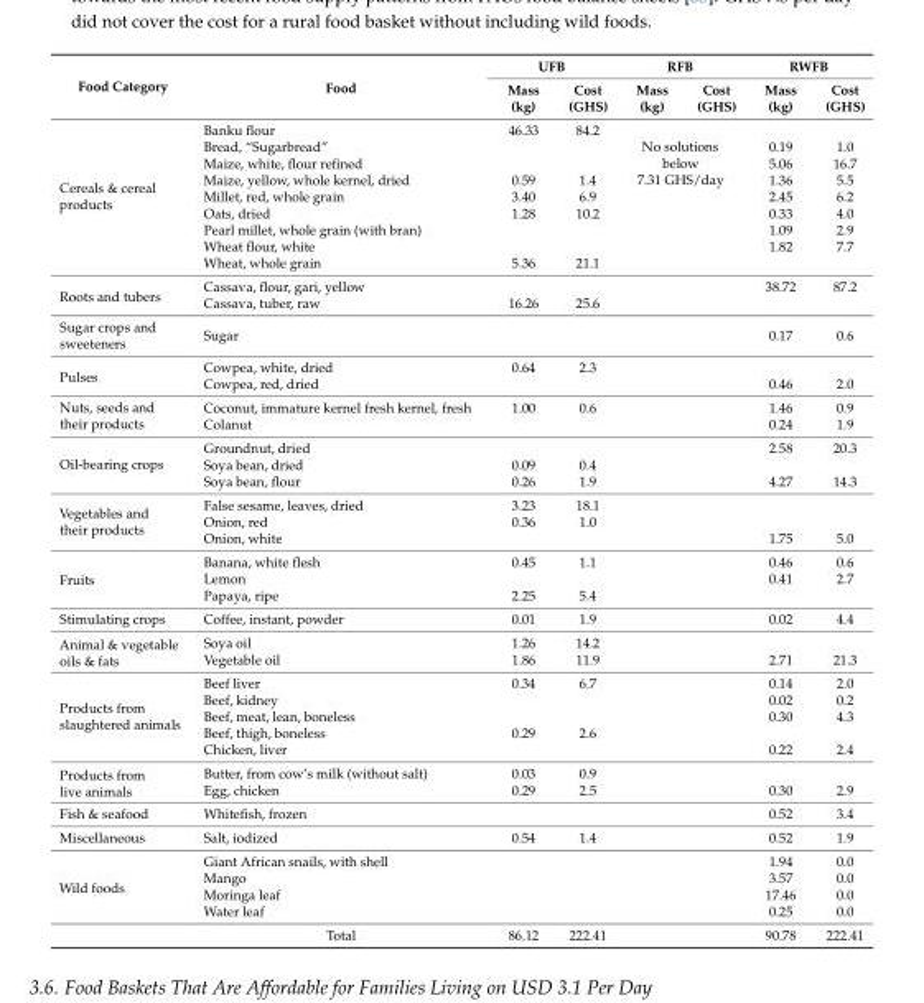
<table><thead><tr><td rowspan="2">Food Category</td><td rowspan="2">Food</td><td colspan="2">UFB</td><td colspan="2">RFB</td><td colspan="2">RWFB</td></tr><tr><td>Mass (kg)</td><td>Cost (GHS)</td><td>Mass (kg)</td><td>Cost (GHS)</td><td>Mass (kg)</td><td>Cost (GHS)</td></tr></thead><tbody><tr><td rowspan="9">Cereals &amp; cereal products</td><td>Banku flour</td><td>46.33</td><td>84.2</td><td rowspan="5" colspan="2">No solutions below 7.31 GHS/day</td><td></td><td></td></tr><tr><td>Bread, “Sugarbread”</td><td></td><td></td><td>0.19</td><td>1.0</td></tr><tr><td>Maize, white, flour refined</td><td></td><td></td><td>5.06</td><td>16.7</td></tr><tr><td>Maize, yellow, whole kernel, dried</td><td>0.59</td><td>1.4</td><td>1.36</td><td>5.5</td></tr><tr><td>Millet, red, whole grain</td><td>3.40</td><td>6.9</td><td>2.45</td><td>6.2</td></tr><tr><td>Oats, dried</td><td>1.28</td><td>10.2</td><td></td><td></td><td>0.33</td><td>4.0</td></tr><tr><td>Pearl millet, whole grain (with bran)</td><td></td><td></td><td></td><td></td><td>1.09</td><td>2.9</td></tr><tr><td>Wheat flour, white</td><td></td><td></td><td></td><td></td><td>1.82</td><td>7.7</td></tr><tr><td>Wheat, whole grain</td><td>5.36</td><td>21.1</td><td></td><td></td><td></td><td></td></tr><tr><td rowspan="2">Roots and tubers</td><td>Cassava, flour, gari, yellow</td><td></td><td></td><td></td><td></td><td>38.72</td><td>87.2</td></tr><tr><td>Cassava, tuber, raw</td><td>16.26</td><td>25.6</td><td></td><td></td><td></td><td></td></tr><tr><td>Sugar crops and sweeteners</td><td>Sugar</td><td></td><td></td><td></td><td></td><td>0.17</td><td>0.6</td></tr><tr><td rowspan="2">Pulses</td><td>Cowpea, white, dried</td><td>0.64</td><td>2.3</td><td></td><td></td><td></td><td></td></tr><tr><td>Cowpea, red, dried</td><td></td><td></td><td></td><td></td><td>0.46</td><td>2.0</td></tr><tr><td rowspan="2">Nuts, seeds and their products</td><td>Coconut, immature kernel fresh kernel, fresh</td><td>1.00</td><td>0.6</td><td></td><td></td><td>1.46</td><td>0.9</td></tr><tr><td>Colanut</td><td></td><td></td><td></td><td></td><td>0.24</td><td>1.9</td></tr><tr><td rowspan="3">Oil-bearing crops</td><td>Groundnut, dried</td><td></td><td></td><td></td><td></td><td>2.58</td><td>20.3</td></tr><tr><td>Soya bean, dried</td><td>0.09</td><td>0.4</td><td></td><td></td><td></td><td></td></tr><tr><td>Soya bean, flour</td><td>0.26</td><td>1.9</td><td></td><td></td><td>4.27</td><td>14.3</td></tr><tr><td rowspan="3">Vegetables and their products</td><td>False sesame, leaves, dried</td><td>3.23</td><td>18.1</td><td></td><td></td><td></td><td></td></tr><tr><td>Onion, red</td><td>0.36</td><td>1.0</td><td></td><td></td><td></td><td></td></tr><tr><td>Onion, white</td><td></td><td></td><td></td><td></td><td>1.75</td><td>5.0</td></tr><tr><td rowspan="3">Fruits</td><td>Banana, white flesh</td><td>0.45</td><td>1.1</td><td></td><td></td><td>0.46</td><td>0.6</td></tr><tr><td>Lemon</td><td></td><td></td><td></td><td></td><td>0.41</td><td>2.7</td></tr><tr><td>Papaya, ripe</td><td>2.25</td><td>5.4</td><td></td><td></td><td></td><td></td></tr><tr><td>Stimulating crops</td><td>Coffee, instant, powder</td><td>0.01</td><td>1.9</td><td></td><td></td><td>0.02</td><td>4.4</td></tr><tr><td rowspan="2">Animal &amp; vegetable oils &amp; fats</td><td>Soya oil</td><td>1.26</td><td>14.2</td><td></td><td></td><td></td><td></td></tr><tr><td>Vegetable oil</td><td>1.86</td><td>11.9</td><td></td><td></td><td>2.71</td><td>21.3</td></tr><tr><td rowspan="5">Products from slaughtered animals</td><td>Beef liver</td><td>0.34</td><td>6.7</td><td></td><td></td><td>0.14</td><td>2.0</td></tr><tr><td>Beef, kidney</td><td></td><td></td><td></td><td></td><td>0.02</td><td>0.2</td></tr><tr><td>Beef, meat, lean, boneless</td><td></td><td></td><td></td><td></td><td>0.30</td><td>4.3</td></tr><tr><td>Beef, thigh, boneless</td><td>0.29</td><td>2.6</td><td></td><td></td><td></td><td></td></tr><tr><td>Chicken, liver</td><td></td><td></td><td></td><td></td><td>0.22</td><td>2.4</td></tr><tr><td rowspan="2">Products from live animals</td><td>Butter, from cow’s milk (without salt)</td><td>0.03</td><td>0.9</td><td></td><td></td><td></td><td></td></tr><tr><td>Egg, chicken</td><td>0.29</td><td>2.5</td><td></td><td></td><td>0.30</td><td>2.9</td></tr><tr><td>Fish &amp; seafood</td><td>Whitefish, frozen</td><td></td><td></td><td></td><td></td><td>0.52</td><td>3.4</td></tr><tr><td>Miscellaneous</td><td>Salt, iodized</td><td>0.54</td><td>1.4</td><td></td><td></td><td>0.52</td><td>1.9</td></tr><tr><td rowspan="5">Wild foods</td><td>Giant African snails, with shell</td><td></td><td></td><td></td><td></td><td>1.94</td><td>0.0</td></tr><tr><td>Mango</td><td></td><td></td><td></td><td></td><td>3.57</td><td>0.0</td></tr><tr><td>Moringa leaf</td><td></td><td></td><td></td><td></td><td>17.46</td><td>0.0</td></tr><tr><td>Water leaf</td><td></td><td></td><td></td><td></td><td>0.25</td><td>0.0</td></tr><tr><td>Total</td><td>86.12</td><td>222.41</td><td></td><td></td><td>90.78</td><td>222.41</td></tr></tbody></table>